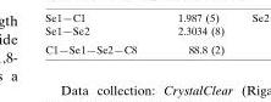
<table><tbody><tr><td>C1—Se1—Se2—C8</td><td>88.8 (2)</td></tr></tbody></table>